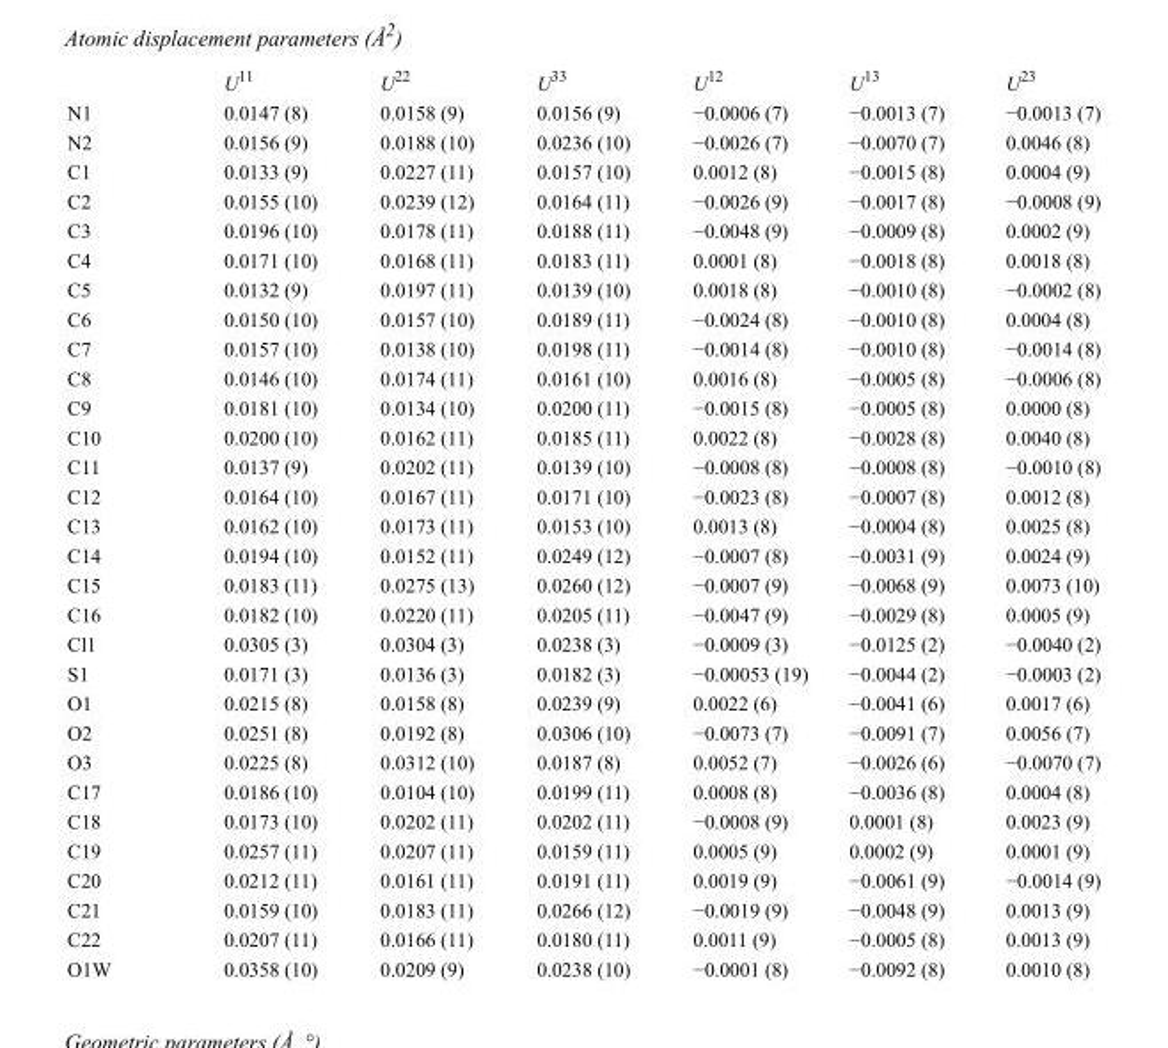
<table><thead><tr><td></td><td>U<sup>11</sup></td><td>U<sup>22</sup></td><td>U<sup>33</sup></td><td>U<sup>12</sup></td><td>U<sup>13</sup></td><td>U<sup>23</sup></td></tr></thead><tbody><tr><td>N1</td><td>0.0147 (8)</td><td>0.0158 (9)</td><td>0.0156 (9)</td><td>−0.0006 (7)</td><td>−0.0013 (7)</td><td>−0.0013 (7)</td></tr><tr><td>N2</td><td>0.0156 (9)</td><td>0.0188 (10)</td><td>0.0236 (10)</td><td>−0.0026 (7)</td><td>−0.0070 (7)</td><td>0.0046 (8)</td></tr><tr><td>C1</td><td>0.0133 (9)</td><td>0.0227 (11)</td><td>0.0157 (10)</td><td>0.0012 (8)</td><td>−0.0015 (8)</td><td>0.0004 (9)</td></tr><tr><td>C2</td><td>0.0155 (10)</td><td>0.0239 (12)</td><td>0.0164 (11)</td><td>−0.0026 (9)</td><td>−0.0017 (8)</td><td>−0.0008 (9)</td></tr><tr><td>C3</td><td>0.0196 (10)</td><td>0.0178 (11)</td><td>0.0188 (11)</td><td>−0.0048 (9)</td><td>−0.0009 (8)</td><td>0.0002 (9)</td></tr><tr><td>C4</td><td>0.0171 (10)</td><td>0.0168 (11)</td><td>0.0183 (11)</td><td>0.0001 (8)</td><td>−0.0018 (8)</td><td>0.0018 (8)</td></tr><tr><td>C5</td><td>0.0132 (9)</td><td>0.0197 (11)</td><td>0.0139 (10)</td><td>0.0018 (8)</td><td>−0.0010 (8)</td><td>−0.0002 (8)</td></tr><tr><td>C6</td><td>0.0150 (10)</td><td>0.0157 (10)</td><td>0.0189 (11)</td><td>−0.0024 (8)</td><td>−0.0010 (8)</td><td>0.0004 (8)</td></tr><tr><td>C7</td><td>0.0157 (10)</td><td>0.0138 (10)</td><td>0.0198 (11)</td><td>−0.0014 (8)</td><td>−0.0010 (8)</td><td>−0.0014 (8)</td></tr><tr><td>C8</td><td>0.0146 (10)</td><td>0.0174 (11)</td><td>0.0161 (10)</td><td>0.0016 (8)</td><td>−0.0005 (8)</td><td>−0.0006 (8)</td></tr><tr><td>C9</td><td>0.0181 (10)</td><td>0.0134 (10)</td><td>0.0200 (11)</td><td>−0.0015 (8)</td><td>−0.0005 (8)</td><td>0.0000 (8)</td></tr><tr><td>C10</td><td>0.0200 (10)</td><td>0.0162 (11)</td><td>0.0185 (11)</td><td>0.0022 (8)</td><td>−0.0028 (8)</td><td>0.0040 (8)</td></tr><tr><td>C11</td><td>0.0137 (9)</td><td>0.0202 (11)</td><td>0.0139 (10)</td><td>−0.0008 (8)</td><td>−0.0008 (8)</td><td>−0.0010 (8)</td></tr><tr><td>C12</td><td>0.0164 (10)</td><td>0.0167 (11)</td><td>0.0171 (10)</td><td>−0.0023 (8)</td><td>−0.0007 (8)</td><td>0.0012 (8)</td></tr><tr><td>C13</td><td>0.0162 (10)</td><td>0.0173 (11)</td><td>0.0153 (10)</td><td>0.0013 (8)</td><td>−0.0004 (8)</td><td>0.0025 (8)</td></tr><tr><td>C14</td><td>0.0194 (10)</td><td>0.0152 (11)</td><td>0.0249 (12)</td><td>−0.0007 (8)</td><td>−0.0031 (9)</td><td>0.0024 (9)</td></tr><tr><td>C15</td><td>0.0183 (11)</td><td>0.0275 (13)</td><td>0.0260 (12)</td><td>−0.0007 (9)</td><td>−0.0068 (9)</td><td>0.0073 (10)</td></tr><tr><td>C16</td><td>0.0182 (10)</td><td>0.0220 (11)</td><td>0.0205 (11)</td><td>−0.0047 (9)</td><td>−0.0029 (8)</td><td>0.0005 (9)</td></tr><tr><td>Cl1</td><td>0.0305 (3)</td><td>0.0304 (3)</td><td>0.0238 (3)</td><td>−0.0009 (3)</td><td>−0.0125 (2)</td><td>−0.0040 (2)</td></tr><tr><td>S1</td><td>0.0171 (3)</td><td>0.0136 (3)</td><td>0.0182 (3)</td><td>−0.00053 (19)</td><td>−0.0044 (2)</td><td>−0.0003 (2)</td></tr><tr><td>O1</td><td>0.0215 (8)</td><td>0.0158 (8)</td><td>0.0239 (9)</td><td>0.0022 (6)</td><td>−0.0041 (6)</td><td>0.0017 (6)</td></tr><tr><td>O2</td><td>0.0251 (8)</td><td>0.0192 (8)</td><td>0.0306 (10)</td><td>−0.0073 (7)</td><td>−0.0091 (7)</td><td>0.0056 (7)</td></tr><tr><td>O3</td><td>0.0225 (8)</td><td>0.0312 (10)</td><td>0.0187 (8)</td><td>0.0052 (7)</td><td>−0.0026 (6)</td><td>−0.0070 (7)</td></tr><tr><td>C17</td><td>0.0186 (10)</td><td>0.0104 (10)</td><td>0.0199 (11)</td><td>0.0008 (8)</td><td>−0.0036 (8)</td><td>0.0004 (8)</td></tr><tr><td>C18</td><td>0.0173 (10)</td><td>0.0202 (11)</td><td>0.0202 (11)</td><td>−0.0008 (9)</td><td>0.0001 (8)</td><td>0.0023 (9)</td></tr><tr><td>C19</td><td>0.0257 (11)</td><td>0.0207 (11)</td><td>0.0159 (11)</td><td>0.0005 (9)</td><td>0.0002 (9)</td><td>0.0001 (9)</td></tr><tr><td>C20</td><td>0.0212 (11)</td><td>0.0161 (11)</td><td>0.0191 (11)</td><td>0.0019 (9)</td><td>−0.0061 (9)</td><td>−0.0014 (9)</td></tr><tr><td>C21</td><td>0.0159 (10)</td><td>0.0183 (11)</td><td>0.0266 (12)</td><td>−0.0019 (9)</td><td>−0.0048 (9)</td><td>0.0013 (9)</td></tr><tr><td>C22</td><td>0.0207 (11)</td><td>0.0166 (11)</td><td>0.0180 (11)</td><td>0.0011 (9)</td><td>−0.0005 (8)</td><td>0.0013 (9)</td></tr><tr><td>O1W</td><td>0.0358 (10)</td><td>0.0209 (9)</td><td>0.0238 (10)</td><td>−0.0001 (8)</td><td>−0.0092 (8)</td><td>0.0010 (8)</td></tr></tbody></table>